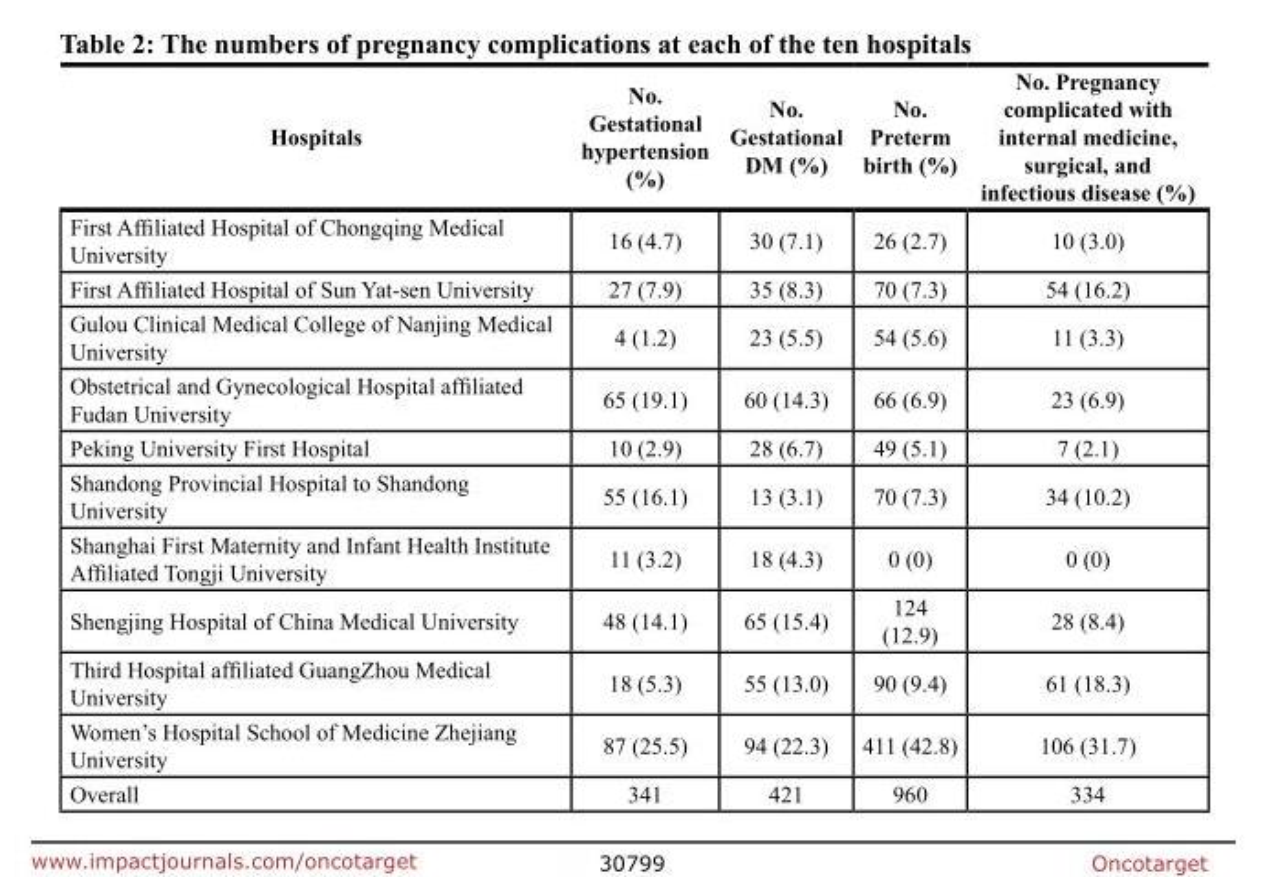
<table><thead><tr><td>Hospitals</td><td>No. Gestational hypertension (%)</td><td>No. Gestational DM (%)</td><td>No. Preterm birth (%)</td><td>No. Pregnancy complicated with internal medicine, surgical, and infectious disease (%)</td></tr></thead><tbody><tr><td>First Affiliated Hospital of Chongqing Medical University</td><td>16 (4.7)</td><td>30 (7.1)</td><td>26 (2.7)</td><td>10 (3.0)</td></tr><tr><td>First Affiliated Hospital of Sun Yat-sen University</td><td>27 (7.9)</td><td>35 (8.3)</td><td>70 (7.3)</td><td>54 (16.2)</td></tr><tr><td>Gulou Clinical Medical College of Nanjing Medical University</td><td>4 (1.2)</td><td>23 (5.5)</td><td>54 (5.6)</td><td>11 (3.3)</td></tr><tr><td>Obstetrical and Gynecological Hospital affiliated Fudan University</td><td>65 (19.1)</td><td>60 (14.3)</td><td>66 (6.9)</td><td>23 (6.9)</td></tr><tr><td>Peking University First Hospital</td><td>10 (2.9)</td><td>28 (6.7)</td><td>49 (5.1)</td><td>7 (2.1)</td></tr><tr><td>Shandong Provincial Hospital to Shandong University</td><td>55 (16.1)</td><td>13 (3.1)</td><td>70 (7.3)</td><td>34 (10.2)</td></tr><tr><td>Shanghai First Maternity and Infant Health Institute Affiliated Tongji University</td><td>11 (3.2)</td><td>18 (4.3)</td><td>0 (0)</td><td>0 (0)</td></tr><tr><td>Shengjing Hospital of China Medical University</td><td>48 (14.1)</td><td>65 (15.4)</td><td>124 (12.9)</td><td>28 (8.4)</td></tr><tr><td>Third Hospital affiliated GuangZhou Medical University</td><td>18 (5.3)</td><td>55 (13.0)</td><td>90 (9.4)</td><td>61 (18.3)</td></tr><tr><td>Women’s Hospital School of Medicine Zhejiang University</td><td>87 (25.5)</td><td>94 (22.3)</td><td>411 (42.8)</td><td>106 (31.7)</td></tr><tr><td>Overall</td><td>341</td><td>421</td><td>960</td><td>334</td></tr></tbody></table>